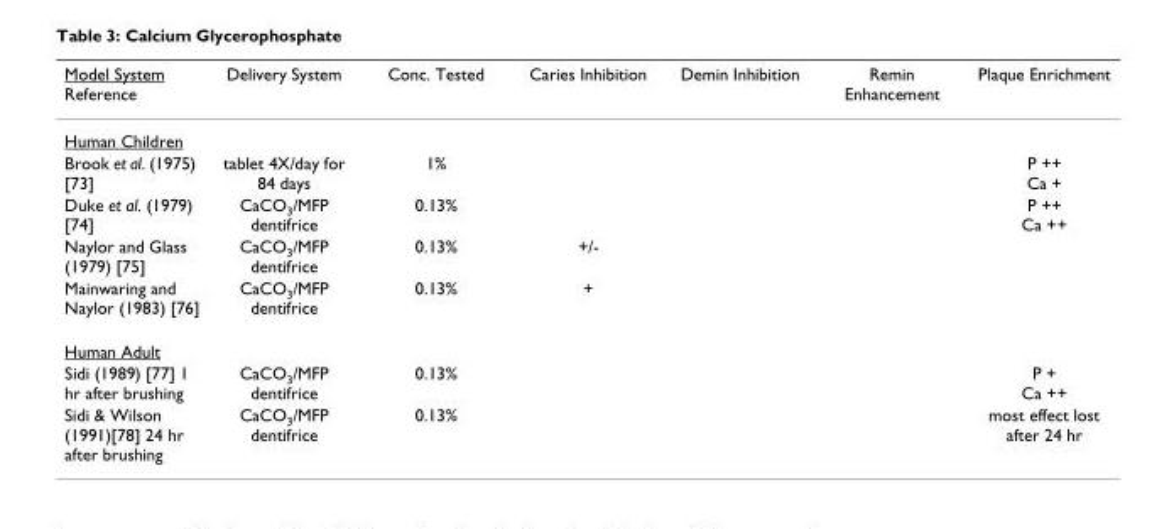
<table><thead><tr><td>Model System Reference</td><td>Delivery System</td><td>Conc. Tested</td><td>Caries Inhibition</td><td>Demin Inhibition</td><td>Remin Enhancement</td><td>Plaque Enrichment</td></tr></thead><tbody><tr><td colspan="7">Human Children</td></tr><tr><td>Brook et al. (1975) [73]</td><td>tablet 4X/day for 84 days</td><td>1%</td><td></td><td></td><td></td><td>P ++ Ca +</td></tr><tr><td>Duke et al. (1979) [74]</td><td>CaCO<sub>3</sub>/MFP dentifrice</td><td>0.13%</td><td></td><td></td><td></td><td>P ++ Ca ++</td></tr><tr><td>Naylor and Glass (1979) [75]</td><td>CaCO<sub>3</sub>/MFP dentifrice</td><td>0.13%</td><td>+/-</td><td></td><td></td><td></td></tr><tr><td>Mainwaring and Naylor (1983) [76]</td><td>CaCO<sub>3</sub>/MFP dentifrice</td><td>0.13%</td><td>+</td><td></td><td></td><td></td></tr><tr><td colspan="7">Human Adult</td></tr><tr><td>Sidi (1989) [77] 1 hr after brushing</td><td>CaCO<sub>3</sub>/MFP dentifrice</td><td>0.13%</td><td></td><td></td><td></td><td>P + Ca ++</td></tr><tr><td>Sidi &amp; Wilson (1991)[78] 24 hr after brushing</td><td>CaCO<sub>3</sub>/MFP dentifrice</td><td>0.13%</td><td></td><td></td><td></td><td>most effect lost after 24 hr</td></tr></tbody></table>